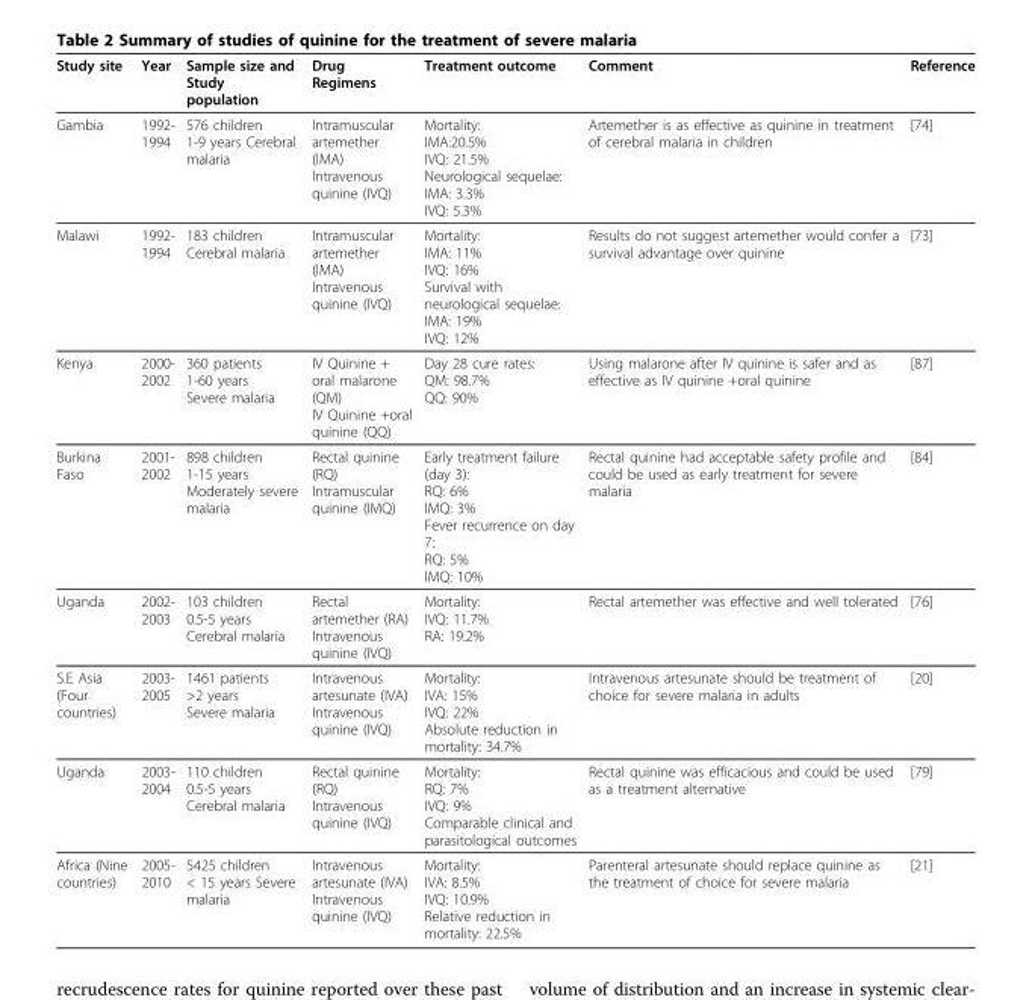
<table><thead><tr><td>Study site</td><td>Year</td><td>Sample size and Study population</td><td>Drug Regimens</td><td>Treatment outcome</td><td>Comment</td><td>Reference</td></tr></thead><tbody><tr><td>Gambia</td><td>1992- 1994</td><td>576 children 1-9 years Cerebral malaria</td><td>Intramuscular artemether (IMA) Intravenous quinine (IVQ)</td><td>Mortality: IMA:20.5% IVQ: 21.5% Neurological sequelae: IMA: 3.3% IVQ: 5.3%</td><td>Artemether is as effective as quinine in treatment of cerebral malaria in children</td><td>[74]</td></tr><tr><td>Malawi</td><td>1992- 1994</td><td>183 children Cerebral malaria</td><td>Intramuscular artemether (IMA) Intravenous quinine (IVQ)</td><td>Mortality: IMA: 11% IVQ: 16% Survival with neurological sequelae: IMA: 19% IVQ: 12%</td><td>Results do not suggest artemether would confer a survival advantage over quinine</td><td>[73]</td></tr><tr><td>Kenya</td><td>2000- 2002</td><td>360 patients 1-60 years Severe malaria</td><td>IV Quinine + oral malarone (QM) IV Quinine +oral quinine (QQ)</td><td>Day 28 cure rates: QM: 98.7% QQ: 90%</td><td>Using malarone after IV quinine is safer and as effective as IV quinine +oral quinine</td><td>[87]</td></tr><tr><td>Burkina Faso</td><td>2001- 2002</td><td>898 children 1-15 years Moderately severe malaria</td><td>Rectal quinine (RQ) Intramuscular quinine (IMQ)</td><td>Early treatment failure (day 3): RQ: 6% IMQ: 3% Fever recurrence on day 7: RQ: 5% IMQ: 10%</td><td>Rectal quinine had acceptable safety profile and could be used as early treatment for severe malaria</td><td>[84]</td></tr><tr><td>Uganda</td><td>2002- 2003</td><td>103 children 0.5-5 years Cerebral malaria</td><td>Rectal artemether (RA) Intravenous quinine (IVQ)</td><td>Mortality: IVQ: 11.7% RA: 19.2%</td><td>Rectal artemether was effective and well tolerated</td><td>[76]</td></tr><tr><td>S.E Asia (Four countries)</td><td>2003- 2005</td><td>1461 patients &gt;2 years Severe malaria</td><td>Intravenous artesunate (IVA) Intravenous quinine (IVQ)</td><td>Mortality: IVA: 15% IVQ: 22% Absolute reduction in mortality: 34.7%</td><td>Intravenous artesunate should be treatment of choice for severe malaria in adults</td><td>[20]</td></tr><tr><td>Uganda</td><td>2003- 2004</td><td>110 children 0.5-5 years Cerebral malaria</td><td>Rectal quinine (RQ) Intravenous quinine (IVQ)</td><td>Mortality: RQ: 7% IVQ: 9% Comparable clinical and parasitological outcomes</td><td>Rectal quinine was efficacious and could be used as a treatment alternative</td><td>[79]</td></tr><tr><td>Africa (Nine countries)</td><td>2005- 2010</td><td>5425 children &lt; 15 years Severe malaria</td><td>Intravenous artesunate (IVA) Intravenous quinine (IVQ)</td><td>Mortality: IVA: 8.5% IVQ: 10.9% Relative reduction in mortality: 22.5%</td><td>Parenteral artesunate should replace quinine as the treatment of choice for severe malaria</td><td>[21]</td></tr></tbody></table>